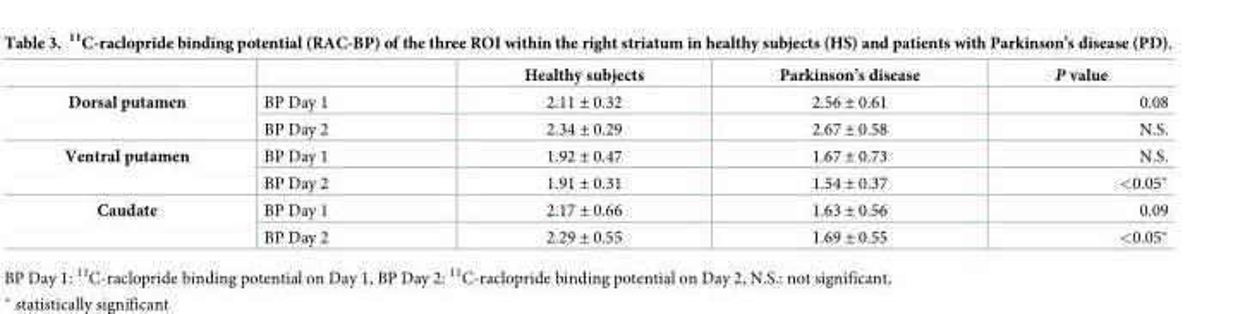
<table><thead><tr><td></td><td></td><td>Healthy subjects</td><td>Parkinson’s disease</td><td>P value</td></tr></thead><tbody><tr><td rowspan="2">Dorsal putamen</td><td>BP Day 1</td><td>2.11 ± 0.32</td><td>2.56 ± 0.61</td><td>0.08</td></tr><tr><td>BP Day 2</td><td>2.34 ± 0.29</td><td>2.67 ± 0.58</td><td>N.S.</td></tr><tr><td rowspan="2">Ventral putamen</td><td>BP Day 1</td><td>1.92 ± 0.47</td><td>1.67 ± 0.73</td><td>N.S.</td></tr><tr><td>BP Day 2</td><td>1.91 ± 0.31</td><td>1.54 ± 0.37</td><td>&lt;0.05*</td></tr><tr><td rowspan="2">Caudate</td><td>BP Day 1</td><td>2.17 ± 0.66</td><td>1.63 ± 0.56</td><td>0.09</td></tr><tr><td>BP Day 2</td><td>2.29 ± 0.55</td><td>1.69 ± 0.55</td><td>&lt;0.05*</td></tr></tbody></table>